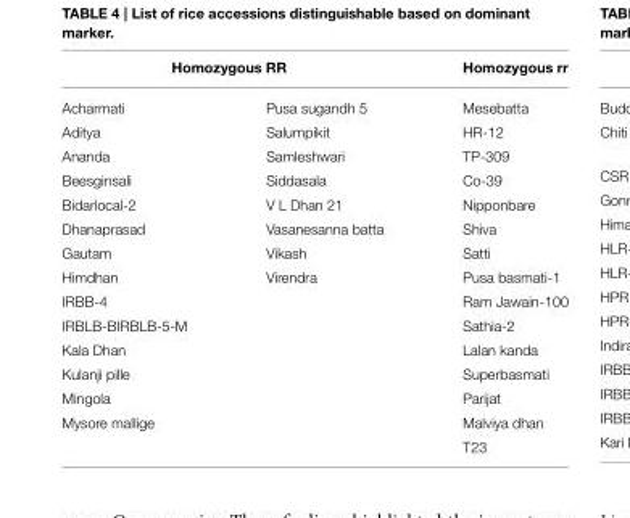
<table><thead><tr><td colspan="2">Homozygous RR</td><td rowspan="2">Homozygous rr Mesebatta</td></tr><tr><td>Acharmati</td><td>Pusa sugandh 5</td></tr></thead><tbody><tr><td>Aditya</td><td>Salumpikit</td><td>HR-12</td></tr><tr><td>Ananda</td><td>Samleshwari</td><td>TP-309</td></tr><tr><td>Beesginsali</td><td>Siddasala</td><td>Co-39</td></tr><tr><td>Bidarlocal-2</td><td>V L Dhan 21</td><td>Nipponbare</td></tr><tr><td>Dhanaprasad</td><td>Vasanesanna batta</td><td>Shiva</td></tr><tr><td>Gautam</td><td>Vikash</td><td>Satti</td></tr><tr><td>Himdhan</td><td>Virendra</td><td>Pusa basmati-1</td></tr><tr><td>IRBB-4</td><td></td><td>Ram Jawain-100</td></tr><tr><td>IRBLB-BIRBLB-5-M</td><td></td><td>Sathia-2</td></tr><tr><td>Kala Dhan</td><td></td><td>Lalan kanda</td></tr><tr><td>Kulanji pille</td><td></td><td>Superbasmati</td></tr><tr><td>Mingola</td><td></td><td>Parijat</td></tr><tr><td rowspan="2">Mysore mallige</td><td></td><td>Malviya dhan</td></tr><tr><td></td><td>T23</td></tr></tbody></table>